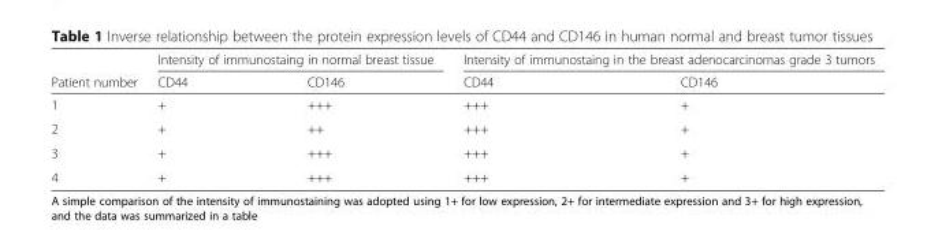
<table><thead><tr><td rowspan="2">Patient number</td><td colspan="2">Intensity of immunostaing in normal breast tissue</td><td colspan="2">Intensity of immunostaing in the breast adenocarcinomas grade 3 tumors</td></tr><tr><td>CD44</td><td>CD146</td><td>CD44</td><td>CD146</td></tr></thead><tbody><tr><td>1</td><td>+</td><td>+++</td><td>+++</td><td>+</td></tr><tr><td>2</td><td>+</td><td>++</td><td>+++</td><td>+</td></tr><tr><td>3</td><td>+</td><td>+++</td><td>+++</td><td>+</td></tr><tr><td>4</td><td>+</td><td>+++</td><td>+++</td><td>+</td></tr></tbody></table>